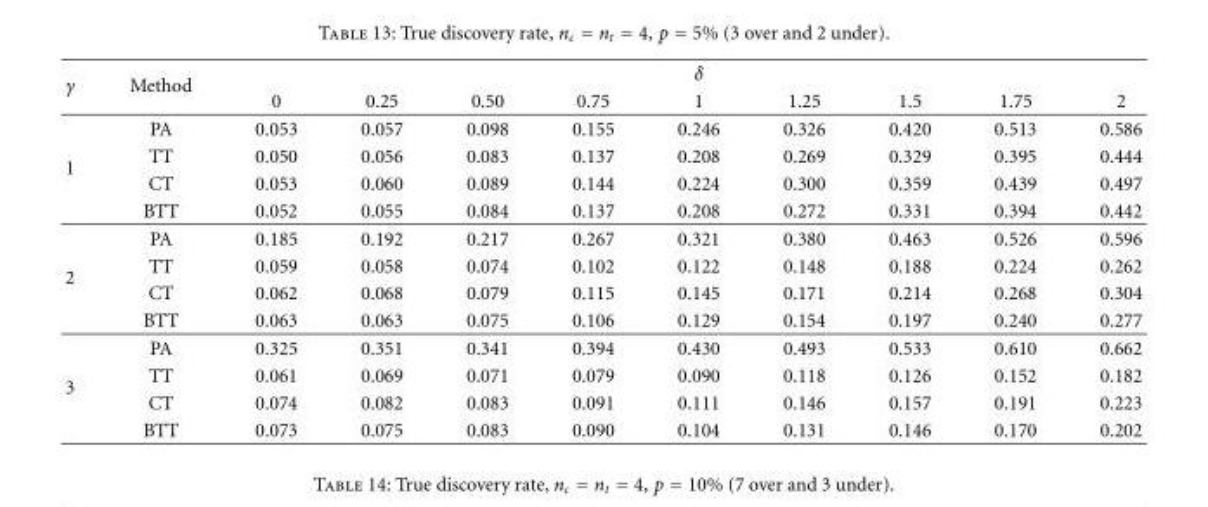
<table><thead><tr><td rowspan="2">γ</td><td rowspan="2">Method</td><td colspan="9">δ</td></tr><tr><td>0</td><td>0.25</td><td>0.50</td><td>0.75</td><td>1</td><td>1.25</td><td>1.5</td><td>1.75</td><td>2</td></tr></thead><tbody><tr><td rowspan="4">1</td><td>PA</td><td>0.053</td><td>0.057</td><td>0.098</td><td>0.155</td><td>0.246</td><td>0.326</td><td>0.420</td><td>0.513</td><td>0.586</td></tr><tr><td>TT</td><td>0.050</td><td>0.056</td><td>0.083</td><td>0.137</td><td>0.208</td><td>0.269</td><td>0.329</td><td>0.395</td><td>0.444</td></tr><tr><td>CT</td><td>0.053</td><td>0.060</td><td>0.089</td><td>0.144</td><td>0.224</td><td>0.300</td><td>0.359</td><td>0.439</td><td>0.497</td></tr><tr><td>BTT</td><td>0.052</td><td>0.055</td><td>0.084</td><td>0.137</td><td>0.208</td><td>0.272</td><td>0.331</td><td>0.394</td><td>0.442</td></tr><tr><td rowspan="4">2</td><td>PA</td><td>0.185</td><td>0.192</td><td>0.217</td><td>0.267</td><td>0.321</td><td>0.380</td><td>0.463</td><td>0.526</td><td>0.596</td></tr><tr><td>TT</td><td>0.059</td><td>0.058</td><td>0.074</td><td>0.102</td><td>0.122</td><td>0.148</td><td>0.188</td><td>0.224</td><td>0.262</td></tr><tr><td>CT</td><td>0.062</td><td>0.068</td><td>0.079</td><td>0.115</td><td>0.145</td><td>0.171</td><td>0.214</td><td>0.268</td><td>0.304</td></tr><tr><td>BTT</td><td>0.063</td><td>0.063</td><td>0.075</td><td>0.106</td><td>0.129</td><td>0.154</td><td>0.197</td><td>0.240</td><td>0.277</td></tr><tr><td rowspan="4">3</td><td>PA</td><td>0.325</td><td>0.351</td><td>0.341</td><td>0.394</td><td>0.430</td><td>0.493</td><td>0.533</td><td>0.610</td><td>0.662</td></tr><tr><td>TT</td><td>0.061</td><td>0.069</td><td>0.071</td><td>0.079</td><td>0.090</td><td>0.118</td><td>0.126</td><td>0.152</td><td>0.182</td></tr><tr><td>CT</td><td>0.074</td><td>0.082</td><td>0.083</td><td>0.091</td><td>0.111</td><td>0.146</td><td>0.157</td><td>0.191</td><td>0.223</td></tr><tr><td>BTT</td><td>0.073</td><td>0.075</td><td>0.083</td><td>0.090</td><td>0.104</td><td>0.131</td><td>0.146</td><td>0.170</td><td>0.202</td></tr></tbody></table>